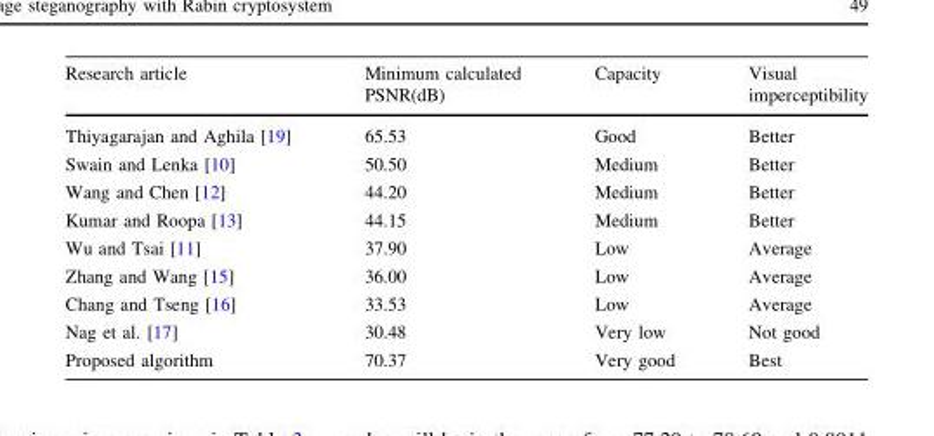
<table><thead><tr><td>Research article</td><td>Minimum calculated PSNR(dB)</td><td>Capacity</td><td>Visual imperceptibility</td></tr></thead><tbody><tr><td>Thiyagarajan and Aghila [19]</td><td>65.53</td><td>Good</td><td>Better</td></tr><tr><td>Swain and Lenka [10]</td><td>50.50</td><td>Medium</td><td>Better</td></tr><tr><td>Wang and Chen [12]</td><td>44.20</td><td>Medium</td><td>Better</td></tr><tr><td>Kumar and Roopa [13]</td><td>44.15</td><td>Medium</td><td>Better</td></tr><tr><td>Wu and Tsai [11]</td><td>37.90</td><td>Low</td><td>Average</td></tr><tr><td>Zhang and Wang [15]</td><td>36.00</td><td>Low</td><td>Average</td></tr><tr><td>Chang and Tseng [16]</td><td>33.53</td><td>Low</td><td>Average</td></tr><tr><td>Nag et al. [17]</td><td>30.48</td><td>Very low</td><td>Not good</td></tr><tr><td>Proposed algorithm</td><td>70.37</td><td>Very good</td><td>Best</td></tr></tbody></table>